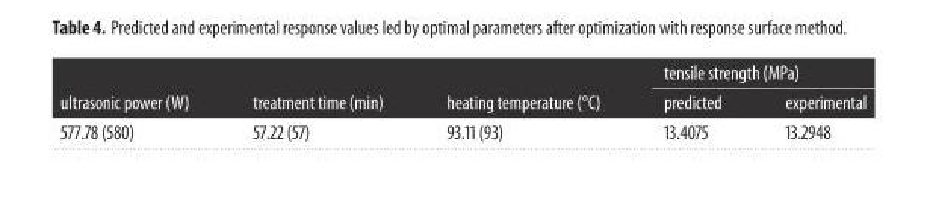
<table><thead><tr><td rowspan="2">ultrasonic power (W)</td><td rowspan="2">treatment time (min)</td><td rowspan="2">heating temperature (°C)</td><td colspan="2">tensile strength (MPa)</td></tr><tr><td>predicted</td><td>experimental</td></tr></thead><tbody><tr><td>577.78 (580)</td><td>57.22 (57)</td><td>93.11 (93)</td><td>13.4075</td><td>13.2948</td></tr></tbody></table>